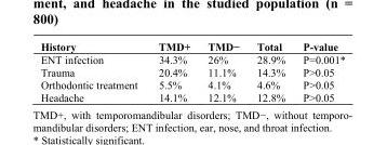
<table><tbody><tr><td>History</td><td>TMD+</td><td>TMD−</td><td>Total</td><td>P-value</td></tr><tr><td>ENT infection</td><td>34.3%</td><td>26%</td><td>28.9%</td><td>P=0.001*</td></tr><tr><td>Trauma</td><td>20.4%</td><td>11.1%</td><td>14.3%</td><td>P&gt;0.05</td></tr><tr><td>Orthodontic treatment</td><td>5.5%</td><td>4.1%</td><td>4.6%</td><td>P&gt;0.05</td></tr><tr><td>Headache</td><td>14.1%</td><td>12.1%</td><td>12.8%</td><td>P&gt;0.05</td></tr></tbody></table>